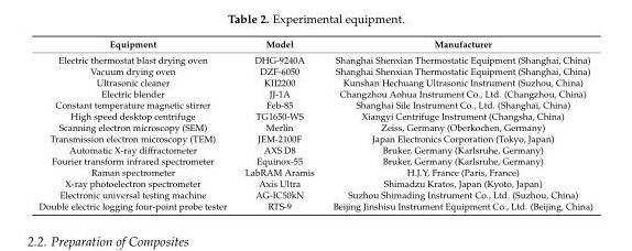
<table><thead><tr><td>Equipment</td><td>Model</td><td>Manufacturer</td></tr></thead><tbody><tr><td>Electric thermostat blast drying oven</td><td>DHG-9240A</td><td>Shanghai Shenxian Thermostatic Equipment (Shanghai, China)</td></tr><tr><td>Vacuum drying oven</td><td>DZF-6050</td><td>Shanghai Shenxian Thermostatic Equipment (Shanghai, China)</td></tr><tr><td>Ultrasonic cleaner</td><td>KII2200</td><td>Kunshan Hechuang Ultrasonic Instrument (Suzhou, China)</td></tr><tr><td>Electric blender</td><td>JJ-1A</td><td>Changzhou Aohua Instrument Co., Ltd. (Changzhou, China)</td></tr><tr><td>Constant temperature magnetic stirrer</td><td>Feb-85</td><td>Shanghai Sile Instrument Co., Ltd. (Shanghai, China)</td></tr><tr><td>High speed desktop centrifuge</td><td>TG1650-WS</td><td>Xiangyi Centrifuge Instrument (Changsha, China)</td></tr><tr><td>Scanning electron microscopy (SEM)</td><td>Merlin</td><td>Zeiss, Germany (Oberkochen, Germany)</td></tr><tr><td>Transmission electron microscopy (TEM)</td><td>JEM-2100F</td><td>Japan Electronics Corporation (Tokyo, Japan)</td></tr><tr><td>Automatic X-ray diffractometer</td><td>AXS D8</td><td>Bruker, Germany (Karlsruhe, Germany)</td></tr><tr><td>Fourier transform infrared spectrometer</td><td>Equinox-55</td><td>Bruker, Germany (Karlsruhe, Germany)</td></tr><tr><td>Raman spectrometer</td><td>LabRAM Aramis</td><td>H.J.Y, France (Paris, France)</td></tr><tr><td>X-ray photoelectron spectrometer</td><td>Axis Ultra</td><td>Shimadzu Kratos, Japan (Kyoto, Japan)</td></tr><tr><td>Electronic universal testing machine</td><td>AG-IC50kN</td><td>Suzhou Shimading Instrument Co., Ltd. (Suzhou, China)</td></tr><tr><td>Double electric logging four-point probe tester</td><td>RTS-9</td><td>Beijing Jinshisu Instrument Equipment Co., Ltd. (Beijing, China)</td></tr></tbody></table>